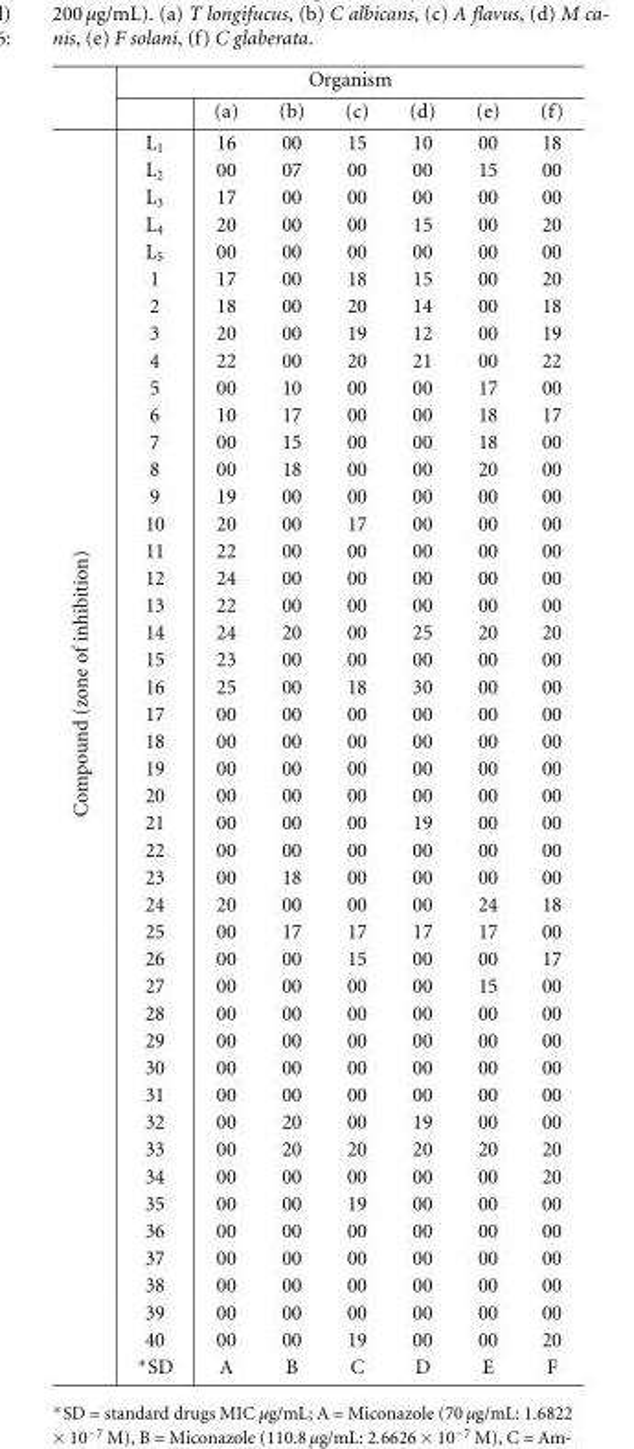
<table><thead><tr><td rowspan="2"></td><td colspan="7">Organism</td></tr><tr><td></td><td>(a)</td><td>(b)</td><td>(c)</td><td>(d)</td><td>(e)</td><td>(f)</td></tr></thead><tbody><tr><td rowspan="46">Compound (zone of inhibition)</td><td>L<sub>1</sub></td><td>16</td><td>00</td><td>15</td><td>10</td><td>00</td><td>18</td></tr><tr><td>L<sub>2</sub></td><td>00</td><td>07</td><td>00</td><td>00</td><td>15</td><td>00</td></tr><tr><td>L<sub>3</sub></td><td>17</td><td>00</td><td>00</td><td>00</td><td>00</td><td>00</td></tr><tr><td>L<sub>4</sub></td><td>20</td><td>00</td><td>00</td><td>15</td><td>00</td><td>20</td></tr><tr><td>L<sub>5</sub></td><td>00</td><td>00</td><td>00</td><td>00</td><td>00</td><td>00</td></tr><tr><td>1</td><td>17</td><td>00</td><td>18</td><td>15</td><td>00</td><td>20</td></tr><tr><td>2</td><td>18</td><td>00</td><td>20</td><td>14</td><td>00</td><td>18</td></tr><tr><td>3</td><td>20</td><td>00</td><td>19</td><td>12</td><td>00</td><td>19</td></tr><tr><td>4</td><td>22</td><td>00</td><td>20</td><td>21</td><td>00</td><td>22</td></tr><tr><td>5</td><td>00</td><td>10</td><td>00</td><td>00</td><td>17</td><td>00</td></tr><tr><td>6</td><td>10</td><td>17</td><td>00</td><td>00</td><td>18</td><td>17</td></tr><tr><td>7</td><td>00</td><td>15</td><td>00</td><td>00</td><td>18</td><td>00</td></tr><tr><td>8</td><td>00</td><td>18</td><td>00</td><td>00</td><td>20</td><td>00</td></tr><tr><td>9</td><td>19</td><td>00</td><td>00</td><td>00</td><td>00</td><td>00</td></tr><tr><td>10</td><td>20</td><td>00</td><td>17</td><td>00</td><td>00</td><td>00</td></tr><tr><td>11</td><td>22</td><td>00</td><td>00</td><td>00</td><td>00</td><td>00</td></tr><tr><td>12</td><td>24</td><td>00</td><td>00</td><td>00</td><td>00</td><td>00</td></tr><tr><td>13</td><td>22</td><td>00</td><td>00</td><td>00</td><td>00</td><td>00</td></tr><tr><td>14</td><td>24</td><td>20</td><td>00</td><td>25</td><td>20</td><td>20</td></tr><tr><td>15</td><td>23</td><td>00</td><td>00</td><td>00</td><td>00</td><td>00</td></tr><tr><td>16</td><td>25</td><td>00</td><td>18</td><td>30</td><td>00</td><td>00</td></tr><tr><td>17</td><td>00</td><td>00</td><td>00</td><td>00</td><td>00</td><td>00</td></tr><tr><td>18</td><td>00</td><td>00</td><td>00</td><td>00</td><td>00</td><td>00</td></tr><tr><td>19</td><td>00</td><td>00</td><td>00</td><td>00</td><td>00</td><td>00</td></tr><tr><td>20</td><td>00</td><td>00</td><td>00</td><td>00</td><td>00</td><td>00</td></tr><tr><td>21</td><td>00</td><td>00</td><td>00</td><td>19</td><td>00</td><td>00</td></tr><tr><td>22</td><td>00</td><td>00</td><td>00</td><td>00</td><td>00</td><td>00</td></tr><tr><td>23</td><td>00</td><td>18</td><td>00</td><td>00</td><td>00</td><td>00</td></tr><tr><td>24</td><td>20</td><td>00</td><td>00</td><td>00</td><td>24</td><td>18</td></tr><tr><td>25</td><td>00</td><td>17</td><td>17</td><td>17</td><td>17</td><td>00</td></tr><tr><td>26</td><td>00</td><td>00</td><td>15</td><td>00</td><td>00</td><td>17</td></tr><tr><td>27</td><td>00</td><td>00</td><td>00</td><td>00</td><td>15</td><td>00</td></tr><tr><td>28</td><td>00</td><td>00</td><td>00</td><td>00</td><td>00</td><td>00</td></tr><tr><td>29</td><td>00</td><td>00</td><td>00</td><td>00</td><td>00</td><td>00</td></tr><tr><td>30</td><td>00</td><td>00</td><td>00</td><td>00</td><td>00</td><td>00</td></tr><tr><td>31</td><td>00</td><td>00</td><td>00</td><td>00</td><td>00</td><td>00</td></tr><tr><td>32</td><td>00</td><td>20</td><td>00</td><td>19</td><td>00</td><td>00</td></tr><tr><td>33</td><td>00</td><td>20</td><td>20</td><td>20</td><td>20</td><td>20</td></tr><tr><td>34</td><td>00</td><td>00</td><td>00</td><td>00</td><td>00</td><td>20</td></tr><tr><td>35</td><td>00</td><td>00</td><td>19</td><td>00</td><td>00</td><td>00</td></tr><tr><td>36</td><td>00</td><td>00</td><td>00</td><td>00</td><td>00</td><td>00</td></tr><tr><td>37</td><td>00</td><td>00</td><td>00</td><td>00</td><td>00</td><td>00</td></tr><tr><td>38</td><td>00</td><td>00</td><td>00</td><td>00</td><td>00</td><td>00</td></tr><tr><td>39</td><td>00</td><td>00</td><td>00</td><td>00</td><td>00</td><td>00</td></tr><tr><td>40</td><td>00</td><td>00</td><td>19</td><td>00</td><td>00</td><td>20</td></tr><tr><td>∗SD</td><td>A</td><td>B</td><td>C</td><td>D</td><td>E</td><td>F</td></tr></tbody></table>